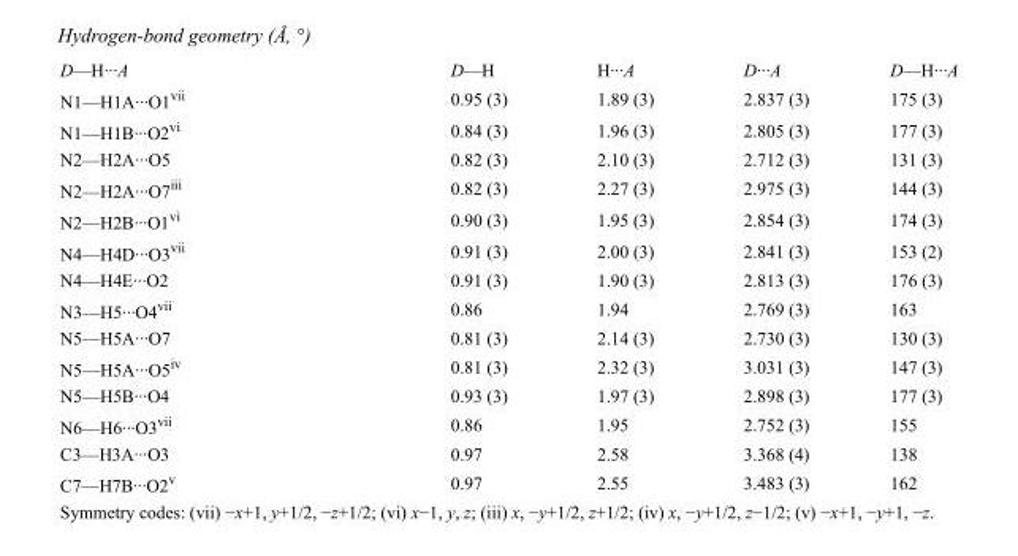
<table><tbody><tr><td>D—H···A</td><td>D—H</td><td>H···A</td><td>D···A</td><td>D—H···A</td></tr><tr><td>N1—H1A···O1<sup>vii</sup></td><td>0.95 (3)</td><td>1.89 (3)</td><td>2.837 (3)</td><td>175 (3)</td></tr><tr><td>N1—H1B···O2<sup>vi</sup></td><td>0.84 (3)</td><td>1.96 (3)</td><td>2.805 (3)</td><td>177 (3)</td></tr><tr><td>N2—H2A···O5</td><td>0.82 (3)</td><td>2.10 (3)</td><td>2.712 (3)</td><td>131 (3)</td></tr><tr><td>N2—H2A···O7<sup>iii</sup></td><td>0.82 (3)</td><td>2.27 (3)</td><td>2.975 (3)</td><td>144 (3)</td></tr><tr><td>N2—H2B···O1<sup>vi</sup></td><td>0.90 (3)</td><td>1.95 (3)</td><td>2.854 (3)</td><td>174 (3)</td></tr><tr><td>N4—H4D···O3<sup>vii</sup></td><td>0.91 (3)</td><td>2.00 (3)</td><td>2.841 (3)</td><td>153 (2)</td></tr><tr><td>N4—H4E···O2</td><td>0.91 (3)</td><td>1.90 (3)</td><td>2.813 (3)</td><td>176 (3)</td></tr><tr><td>N3—H5···O4<sup>vii</sup></td><td>0.86</td><td>1.94</td><td>2.769 (3)</td><td>163</td></tr><tr><td>N5—H5A···O7</td><td>0.81 (3)</td><td>2.14 (3)</td><td>2.730 (3)</td><td>130 (3)</td></tr><tr><td>N5—H5A···O5<sup>iv</sup></td><td>0.81 (3)</td><td>2.32 (3)</td><td>3.031 (3)</td><td>147 (3)</td></tr><tr><td>N5—H5B···O4</td><td>0.93 (3)</td><td>1.97 (3)</td><td>2.898 (3)</td><td>177 (3)</td></tr><tr><td>N6—H6···O3<sup>vii</sup></td><td>0.86</td><td>1.95</td><td>2.752 (3)</td><td>155</td></tr><tr><td>C3—H3A···O3</td><td>0.97</td><td>2.58</td><td>3.368 (4)</td><td>138</td></tr><tr><td>C7—H7B···O2<sup>v</sup></td><td>0.97</td><td>2.55</td><td>3.483 (3)</td><td>162</td></tr></tbody></table>